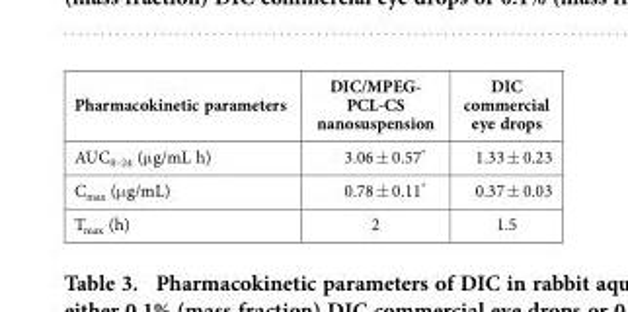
<table><tbody><tr><td>Pharmacokinetic parameters</td><td>DIC/MPEG- PCL-CS nanosuspension</td><td>DIC commercial eye drops</td></tr><tr><td>AUC<sub>0–24</sub> (μ g/mL h)</td><td>3.06 ± 0.57*</td><td>1.33 ± 0.23</td></tr><tr><td>C<sub>max</sub> (μ g/mL)</td><td>0.78 ± 0.11*</td><td>0.37 ± 0.03</td></tr><tr><td>T<sub>max</sub> (h)</td><td>2</td><td>1.5</td></tr></tbody></table>